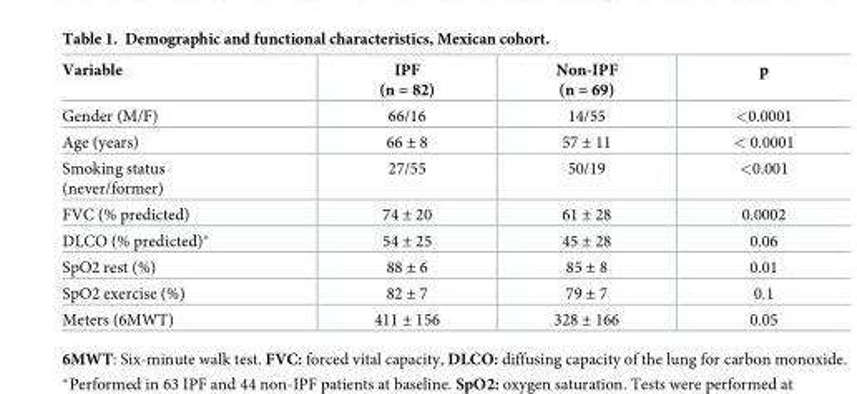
<table><thead><tr><td>Variable</td><td>IPF (n = 82)</td><td>Non-IPF (n = 69)</td><td>p</td></tr></thead><tbody><tr><td>Gender (M/F)</td><td>66/16</td><td>14/55</td><td>&lt;0.0001</td></tr><tr><td>Age (years)</td><td>66 ± 8</td><td>57 ± 11</td><td>&lt; 0.0001</td></tr><tr><td>Smoking status (never/former)</td><td>27/55</td><td>50/19</td><td>&lt;0.001</td></tr><tr><td>FVC (% predicted)</td><td>74 ± 20</td><td>61 ± 28</td><td>0.0002</td></tr><tr><td>DLCO (% predicted)*</td><td>54 ± 25</td><td>45 ± 28</td><td>0.06</td></tr><tr><td>SpO2 rest (%)</td><td>88 ± 6</td><td>85 ± 8</td><td>0.01</td></tr><tr><td>SpO2 exercise (%)</td><td>82 ± 7</td><td>79 ± 7</td><td>0.1</td></tr><tr><td>Meters (6MWT)</td><td>411 ± 156</td><td>328 ± 166</td><td>0.05</td></tr></tbody></table>